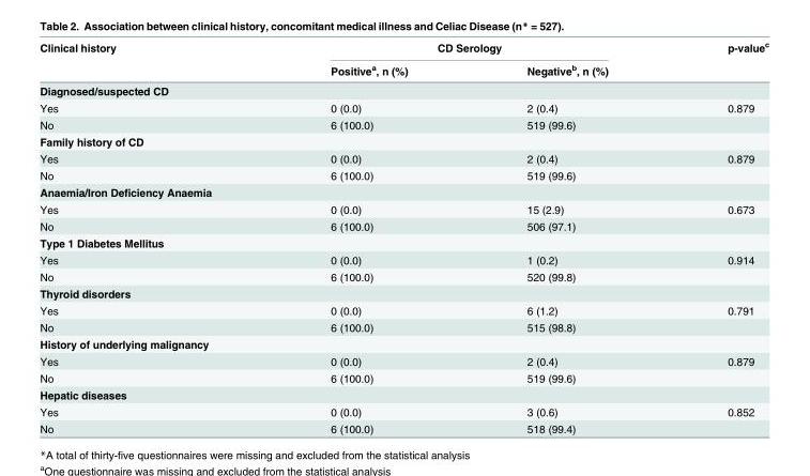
<table><thead><tr><td rowspan="2">Clinical history</td><td colspan="2">CD Serology</td><td rowspan="2">p-value<sup>c</sup></td></tr><tr><td>Positive<sup>a</sup>, n (%)</td><td>Negative<sup>b</sup>, n (%)</td></tr></thead><tbody><tr><td colspan="4">Diagnosed/suspected CD</td></tr><tr><td>Yes</td><td>0 (0.0)</td><td>2 (0.4)</td><td>0.879</td></tr><tr><td>No</td><td>6 (100.0)</td><td>519 (99.6)</td><td></td></tr><tr><td colspan="4">Family history of CD</td></tr><tr><td>Yes</td><td>0 (0.0)</td><td>2 (0.4)</td><td>0.879</td></tr><tr><td>No</td><td>6 (100.0)</td><td>519 (99.6)</td><td></td></tr><tr><td colspan="4">Anaemia/Iron Deficiency Anaemia</td></tr><tr><td>Yes</td><td>0 (0.0)</td><td>15 (2.9)</td><td>0.673</td></tr><tr><td>No</td><td>6 (100.0)</td><td>506 (97.1)</td><td></td></tr><tr><td colspan="4">Type 1 Diabetes Mellitus</td></tr><tr><td>Yes</td><td>0 (0.0)</td><td>1 (0.2)</td><td>0.914</td></tr><tr><td>No</td><td>6 (100.0)</td><td>520 (99.8)</td><td></td></tr><tr><td colspan="4">Thyroid disorders</td></tr><tr><td>Yes</td><td>0 (0.0)</td><td>6 (1.2)</td><td>0.791</td></tr><tr><td>No</td><td>6 (100.0)</td><td>515 (98.8)</td><td></td></tr><tr><td colspan="4">History of underlying malignancy</td></tr><tr><td>Yes</td><td>0 (0.0)</td><td>2 (0.4)</td><td>0.879</td></tr><tr><td>No</td><td>6 (100.0)</td><td>519 (99.6)</td><td></td></tr><tr><td colspan="4">Hepatic diseases</td></tr><tr><td>Yes</td><td>0 (0.0)</td><td>3 (0.6)</td><td>0.852</td></tr><tr><td>No</td><td>6 (100.0)</td><td>518 (99.4)</td><td></td></tr></tbody></table>